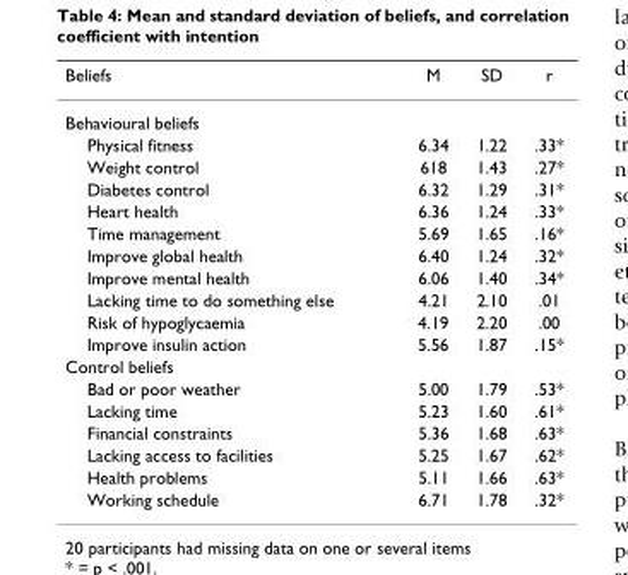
<table><thead><tr><td>Beliefs</td><td>M</td><td>SD</td><td>r</td></tr></thead><tbody><tr><td colspan="4">Behavioural beliefs</td></tr><tr><td>Physical fitness</td><td>6.34</td><td>1.22</td><td>.33*</td></tr><tr><td>Weight control</td><td>618</td><td>1.43</td><td>.27*</td></tr><tr><td>Diabetes control</td><td>6.32</td><td>1.29</td><td>.31*</td></tr><tr><td>Heart health</td><td>6.36</td><td>1.24</td><td>.33*</td></tr><tr><td>Time management</td><td>5.69</td><td>1.65</td><td>.16*</td></tr><tr><td>Improve global health</td><td>6.40</td><td>1.24</td><td>.32*</td></tr><tr><td>Improve mental health</td><td>6.06</td><td>1.40</td><td>.34*</td></tr><tr><td>Lacking time to do something else</td><td>4.21</td><td>2.10</td><td>.01</td></tr><tr><td>Risk of hypoglycaemia</td><td>4.19</td><td>2.20</td><td>.00</td></tr><tr><td>Improve insulin action</td><td>5.56</td><td>1.87</td><td>.15*</td></tr><tr><td colspan="4">Control beliefs</td></tr><tr><td>Bad or poor weather</td><td>5.00</td><td>1.79</td><td>.53*</td></tr><tr><td>Lacking time</td><td>5.23</td><td>1.60</td><td>.61*</td></tr><tr><td>Financial constraints</td><td>5.36</td><td>1.68</td><td>.63*</td></tr><tr><td>Lacking access to facilities</td><td>5.25</td><td>1.67</td><td>.62*</td></tr><tr><td>Health problems</td><td>5.11</td><td>1.66</td><td>.63*</td></tr><tr><td>Working schedule</td><td>6.71</td><td>1.78</td><td>.32*</td></tr></tbody></table>